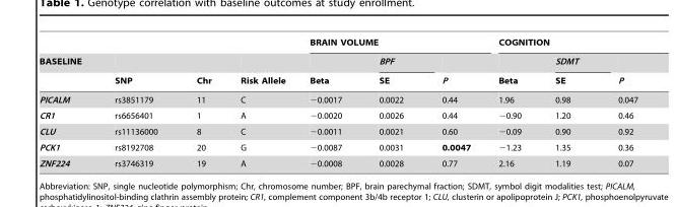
<table><thead><tr><td rowspan="3">BASELINE</td><td rowspan="3">SNP</td><td rowspan="3">Chr</td><td rowspan="3">Risk Allele</td><td colspan="3">BRAIN VOLUME</td><td colspan="3">COGNITION</td></tr><tr><td rowspan="2">Beta</td><td rowspan="2">BPF SE</td><td rowspan="2">P</td><td rowspan="2">Beta</td><td rowspan="2">SDMT SE</td><td rowspan="2">P</td></tr><tr></tr></thead><tbody><tr><td>PICALM</td><td>rs3851179</td><td>11</td><td>C</td><td>−0.0017</td><td>0.0022</td><td>0.44</td><td>1.96</td><td>0.98</td><td>0.047</td></tr><tr><td>CR1</td><td>rs6656401</td><td>1</td><td>A</td><td>−0.0020</td><td>0.0026</td><td>0.44</td><td>−0.90</td><td>1.20</td><td>0.46</td></tr><tr><td>CLU</td><td>rs11136000</td><td>8</td><td>C</td><td>−0.0011</td><td>0.0021</td><td>0.60</td><td>−0.09</td><td>0.90</td><td>0.92</td></tr><tr><td>PCK1</td><td>rs8192708</td><td>20</td><td>G</td><td>−0.0087</td><td>0.0031</td><td>0.0047</td><td>−1.23</td><td>1.35</td><td>0.36</td></tr><tr><td>ZNF224</td><td>rs3746319</td><td>19</td><td>A</td><td>−0.0008</td><td>0.0028</td><td>0.77</td><td>2.16</td><td>1.19</td><td>0.07</td></tr></tbody></table>